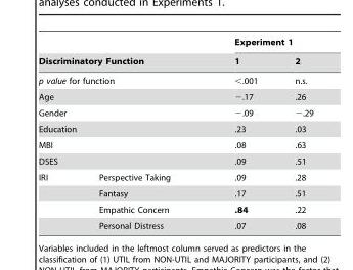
<table><thead><tr><td></td><td></td><td colspan="2">Experiment 1</td></tr><tr><td colspan="2">Discriminatory Function</td><td>1</td><td>2</td></tr></thead><tbody><tr><td colspan="2">p value for function</td><td>&lt;.001</td><td>n.s.</td></tr><tr><td colspan="2">Age</td><td>−.17</td><td>.26</td></tr><tr><td colspan="2">Gender</td><td>−.09</td><td>−.29</td></tr><tr><td colspan="2">Education</td><td>.23</td><td>.03</td></tr><tr><td colspan="2">MBI</td><td>.08</td><td>.63</td></tr><tr><td colspan="2">DSES</td><td>.09</td><td>.51</td></tr><tr><td rowspan="4">IRI</td><td>Perspective Taking</td><td>.09</td><td>.28</td></tr><tr><td>Fantasy</td><td>.17</td><td>.51</td></tr><tr><td>Empathic Concern</td><td>.84</td><td>.22</td></tr><tr><td>Personal Distress</td><td>.07</td><td>.08</td></tr></tbody></table>